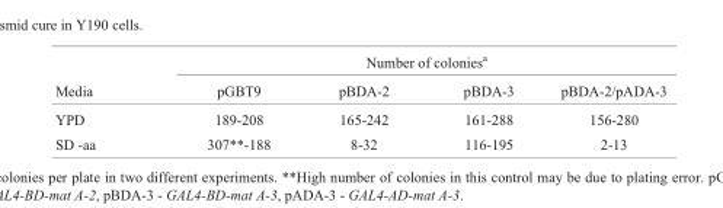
<table><thead><tr><td rowspan="2">Media</td><td colspan="4">Number of colonies<sup>a</sup></td></tr><tr><td>pGBT9</td><td>pBDA-2</td><td>pBDA-3</td><td>pBDA-2/pADA-3</td></tr></thead><tbody><tr><td>YPD</td><td>189-208</td><td>165-242</td><td>161-288</td><td>156-280</td></tr><tr><td>SD -aa</td><td>307**-188</td><td>8-32</td><td>116-195</td><td>2-13</td></tr></tbody></table>